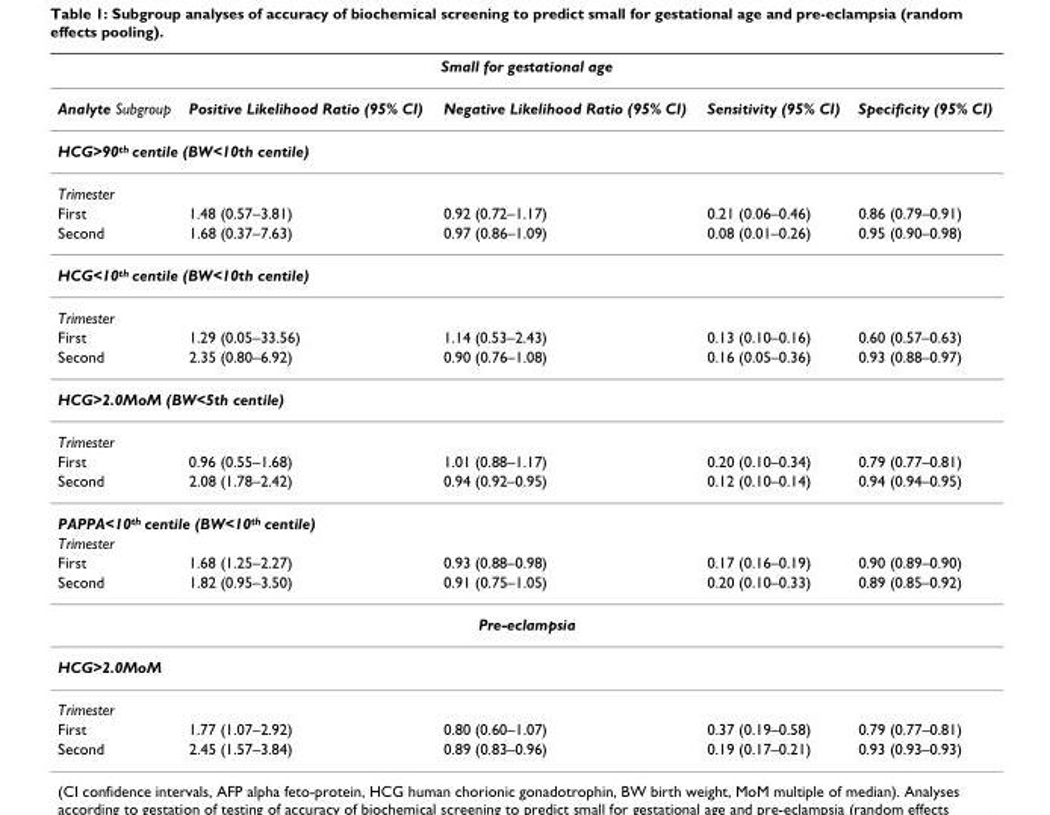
<table><thead><tr><td colspan="5">Small for gestational age</td></tr><tr><td>Analyte Subgroup</td><td>Positive Likelihood Ratio (95% CI)</td><td>Negative Likelihood Ratio (95% CI)</td><td>Sensitivity (95% CI)</td><td>Specificity (95% CI)</td></tr></thead><tbody><tr><td colspan="5">HCG&gt;90<sup>th</sup> centile (BW&lt;10th centile)</td></tr><tr><td colspan="5">Trimester</td></tr><tr><td>First</td><td>1.48 (0.57–3.81)</td><td>0.92 (0.72–1.17)</td><td>0.21 (0.06–0.46)</td><td>0.86 (0.79–0.91)</td></tr><tr><td>Second</td><td>1.68 (0.37–7.63)</td><td>0.97 (0.86–1.09)</td><td>0.08 (0.01–0.26)</td><td>0.95 (0.90–0.98)</td></tr><tr><td colspan="5">HCG&lt;10<sup>th</sup> centile (BW&lt;10th centile)</td></tr><tr><td colspan="5">Trimester</td></tr><tr><td>First</td><td>1.29 (0.05–33.56)</td><td>1.14 (0.53–2.43)</td><td>0.13 (0.10–0.16)</td><td>0.60 (0.57–0.63)</td></tr><tr><td>Second</td><td>2.35 (0.80–6.92)</td><td>0.90 (0.76–1.08)</td><td>0.16 (0.05–0.36)</td><td>0.93 (0.88–0.97)</td></tr><tr><td colspan="5">HCG&gt;2.0MoM (BW&lt;5th centile)</td></tr><tr><td colspan="5">Trimester</td></tr><tr><td>First</td><td>0.96 (0.55–1.68)</td><td>1.01 (0.88–1.17)</td><td>0.20 (0.10–0.34)</td><td>0.79 (0.77–0.81)</td></tr><tr><td>Second</td><td>2.08 (1.78–2.42)</td><td>0.94 (0.92–0.95)</td><td>0.12 (0.10–0.14)</td><td>0.94 (0.94–0.95)</td></tr><tr><td colspan="5">PAPPA&lt;10<sup>th</sup> centile (BW&lt;10<sup>th</sup> centile)</td></tr><tr><td colspan="5">Trimester</td></tr><tr><td>First</td><td>1.68 (1.25–2.27)</td><td>0.93 (0.88–0.98)</td><td>0.17 (0.16–0.19)</td><td>0.90 (0.89–0.90)</td></tr><tr><td>Second</td><td>1.82 (0.95–3.50)</td><td>0.91 (0.75–1.05)</td><td>0.20 (0.10–0.33)</td><td>0.89 (0.85–0.92)</td></tr><tr><td colspan="5">Pre-eclampsia</td></tr><tr><td colspan="5">HCG&gt;2.0MoM</td></tr><tr><td colspan="5">Trimester</td></tr><tr><td>First</td><td>1.77 (1.07–2.92)</td><td>0.80 (0.60–1.07)</td><td>0.37 (0.19–0.58)</td><td>0.79 (0.77–0.81)</td></tr><tr><td>Second</td><td>2.45 (1.57–3.84)</td><td>0.89 (0.83–0.96)</td><td>0.19 (0.17–0.21)</td><td>0.93 (0.93–0.93)</td></tr></tbody></table>